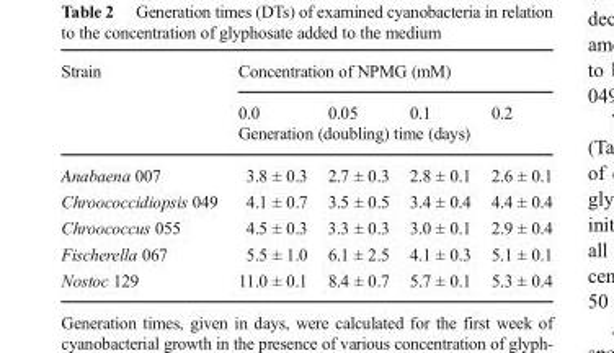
<table><thead><tr><td rowspan="3">Strain</td><td colspan="4">Concentration of NPMG (mM)</td></tr><tr><td>0.0</td><td>0.05</td><td>0.1</td><td>0.2</td></tr><tr><td colspan="4">Generation (doubling) time (days)</td></tr></thead><tbody><tr><td>Anabaena 007</td><td>3.8 ± 0.3</td><td>2.7 ± 0.3</td><td>2.8 ± 0.1</td><td>2.6 ± 0.1</td></tr><tr><td>Chroococcidiopsis 049</td><td>4.1 ± 0.7</td><td>3.5 ± 0.5</td><td>3.4 ± 0.4</td><td>4.4 ± 0.4</td></tr><tr><td>Chroococcus 055</td><td>4.5 ± 0.3</td><td>3.3 ± 0.3</td><td>3.0 ± 0.1</td><td>2.9 ± 0.4</td></tr><tr><td>Fischerella 067</td><td>5.5 ± 1.0</td><td>6.1 ± 2.5</td><td>4.1 ± 0.3</td><td>5.1 ± 0.1</td></tr><tr><td>Nostoc 129</td><td>11.0 ± 0.1</td><td>8.4 ± 0.7</td><td>5.7 ± 0.1</td><td>5.3 ± 0.4</td></tr></tbody></table>